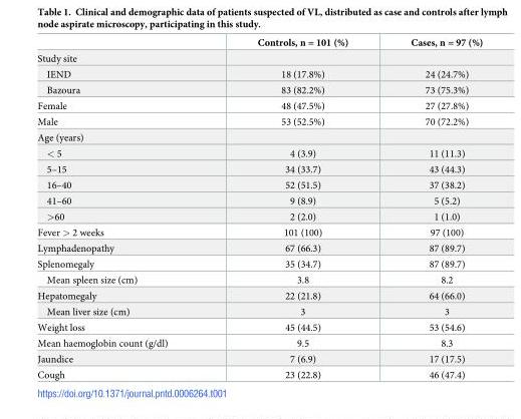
<table><thead><tr><td></td><td>Controls, n = 101 (%)</td><td>Cases, n = 97 (%)</td></tr></thead><tbody><tr><td colspan="3">Study site</td></tr><tr><td>IEND</td><td>18 (17.8%)</td><td>24 (24.7%)</td></tr><tr><td>Bazoura</td><td>83 (82.2%)</td><td>73 (75.3%)</td></tr><tr><td>Female</td><td>48 (47.5%)</td><td>27 (27.8%)</td></tr><tr><td>Male</td><td>53 (52.5%)</td><td>70 (72.2%)</td></tr><tr><td colspan="3">Age (years)</td></tr><tr><td>&lt; 5</td><td>4 (3.9)</td><td>11 (11.3)</td></tr><tr><td>5–15</td><td>34 (33.7)</td><td>43 (44.3)</td></tr><tr><td>16–40</td><td>52 (51.5)</td><td>37 (38.2)</td></tr><tr><td>41–60</td><td>9 (8.9)</td><td>5 (5.2)</td></tr><tr><td>&gt;60</td><td>2 (2.0)</td><td>1 (1.0)</td></tr><tr><td>Fever &gt; 2 weeks</td><td>101 (100)</td><td>97 (100)</td></tr><tr><td>Lymphadenopathy</td><td>67 (66.3)</td><td>87 (89.7)</td></tr><tr><td>Splenomegaly</td><td>35 (34.7)</td><td>87 (89.7)</td></tr><tr><td>Mean spleen size (cm)</td><td>3.8</td><td>8.2</td></tr><tr><td>Hepatomegaly</td><td>22 (21.8)</td><td>64 (66.0)</td></tr><tr><td>Mean liver size (cm)</td><td>3</td><td>3</td></tr><tr><td>Weight loss</td><td>45 (44.5)</td><td>53 (54.6)</td></tr><tr><td>Mean haemoglobin count (g/dl)</td><td>9.5</td><td>8.3</td></tr><tr><td>Jaundice</td><td>7 (6.9)</td><td>17 (17.5)</td></tr><tr><td>Cough</td><td>23 (22.8)</td><td>46 (47.4)</td></tr></tbody></table>